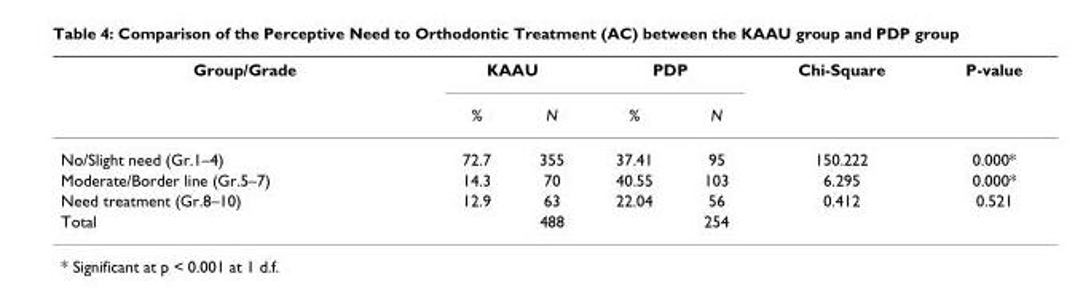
<table><thead><tr><td rowspan="2">Group/Grade</td><td colspan="2">KAAU</td><td colspan="2">PDP</td><td rowspan="2">Chi-Square</td><td rowspan="2">P-value</td></tr><tr><td>%</td><td>N</td><td>%</td><td>N</td></tr></thead><tbody><tr><td>No/Slight need (Gr.1–4)</td><td>72.7</td><td>355</td><td>37.41</td><td>95</td><td>150.222</td><td>0.000*</td></tr><tr><td>Moderate/Border line (Gr.5–7)</td><td>14.3</td><td>70</td><td>40.55</td><td>103</td><td>6.295</td><td>0.000*</td></tr><tr><td>Need treatment (Gr.8–10)</td><td>12.9</td><td>63</td><td>22.04</td><td>56</td><td>0.412</td><td>0.521</td></tr><tr><td>Total</td><td></td><td>488</td><td></td><td>254</td><td></td><td></td></tr></tbody></table>